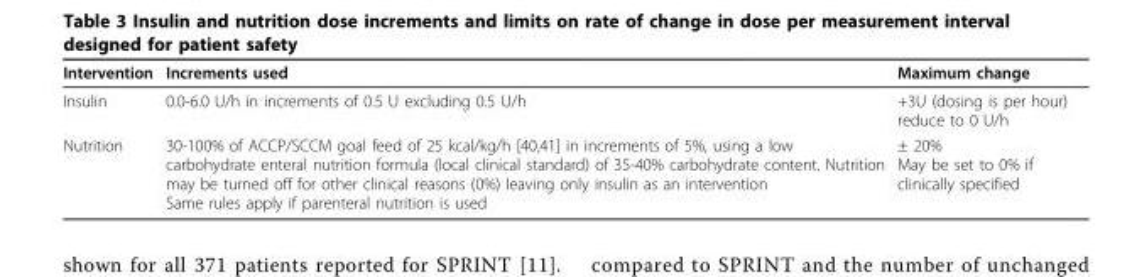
<table><thead><tr><td>Intervention</td><td>Increments used</td><td>Maximum change</td></tr></thead><tbody><tr><td>Insulin</td><td>0.0-6.0 U/h in increments of 0.5 U excluding 0.5 U/h</td><td>+3U (dosing is per hour) reduce to 0 U/h</td></tr><tr><td>Nutrition</td><td>30-100% of ACCP/SCCM goal feed of 25 kcal/kg/h [40,41] in increments of 5%, using a low carbohydrate enteral nutrition formula (local clinical standard) of 35-40% carbohydrate content. Nutrition may be turned off for other clinical reasons (0%) leaving only insulin as an intervention Same rules apply if parenteral nutrition is used</td><td>± 20% May be set to 0% if clinically specified</td></tr></tbody></table>